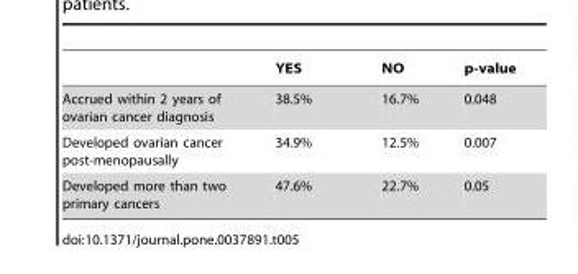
<table><thead><tr><td></td><td>YES</td><td>NO</td><td>p-value</td></tr></thead><tbody><tr><td>Accrued within 2 years of ovarian cancer diagnosis</td><td>38.5%</td><td>16.7%</td><td>0.048</td></tr><tr><td>Developed ovarian cancer post-menopausally</td><td>34.9%</td><td>12.5%</td><td>0.007</td></tr><tr><td>Developed more than two primary cancers</td><td>47.6%</td><td>22.7%</td><td>0.05</td></tr></tbody></table>